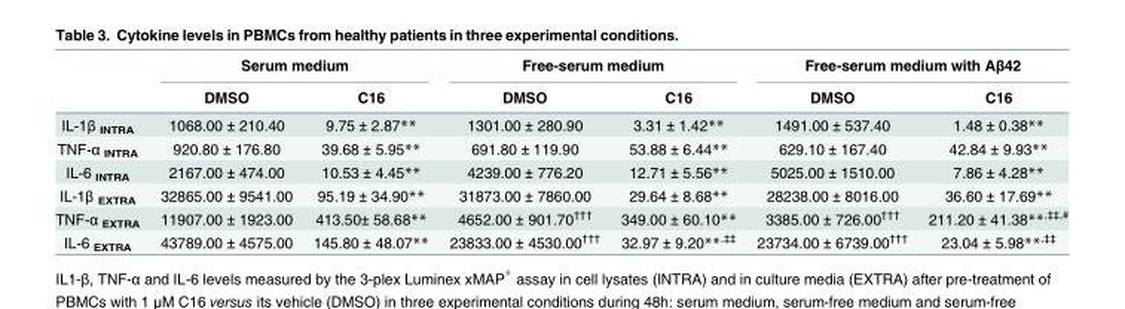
<table><thead><tr><td rowspan="2"></td><td colspan="2">Serum medium</td><td colspan="2">Free-serum medium</td><td colspan="2">Free-serum medium with Aβ42</td></tr><tr><td>DMSO</td><td>C16</td><td>DMSO</td><td>C16</td><td>DMSO</td><td>C16</td></tr></thead><tbody><tr><td>IL-1β <sub>INTRA</sub></td><td>1068.00 ± 210.40</td><td>9.75 ± 2.87**</td><td>1301.00 ± 280.90</td><td>3.31 ± 1.42**</td><td>1491.00 ± 537.40</td><td>1.48 ± 0.38**</td></tr><tr><td>TNF-α <sub>INTRA</sub></td><td>920.80 ± 176.80</td><td>39.68 ± 5.95**</td><td>691.80 ± 119.90</td><td>53.88 ± 6.44**</td><td>629.10 ± 167.40</td><td>42.84 ± 9.93**</td></tr><tr><td>IL-6 <sub>INTRA</sub></td><td>2167.00 ± 474.00</td><td>10.53 ± 4.45**</td><td>4239.00 ± 776.20</td><td>12.71 ± 5.56**</td><td>5025.00 ± 1510.00</td><td>7.86 ± 4.28**</td></tr><tr><td>IL-1β <sub>EXTRA</sub></td><td>32865.00 ± 9541.00</td><td>95.19 ± 34.90**</td><td>31873.00 ± 7860.00</td><td>29.64 ± 8.68**</td><td>28238.00 ± 8016.00</td><td>36.60 ± 17.69**</td></tr><tr><td>TNF-α <sub>EXTRA</sub></td><td>11907.00 ± 1923.00</td><td>413.50± 58.68**</td><td>4652.00 ± 901.70<sup>†††</sup></td><td>349.00 ± 60.10**</td><td>3385.00 ± 726.00<sup>†††</sup></td><td>211.20 ± 41.38**<sup>,‡‡,#</sup></td></tr><tr><td>IL-6 <sub>EXTRA</sub></td><td>43789.00 ± 4575.00</td><td>145.80 ± 48.07**</td><td>23833.00 ± 4530.00<sup>†††</sup></td><td>32.97 ± 9.20**<sup>,‡‡</sup></td><td>23734.00 ± 6739.00<sup>†††</sup></td><td>23.04 ± 5.98**<sup>,‡‡</sup></td></tr></tbody></table>